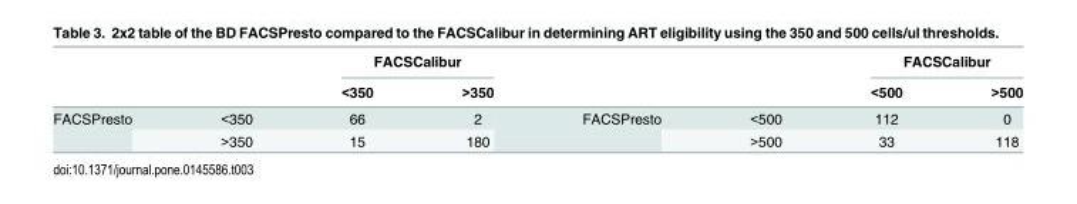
<table><thead><tr><td rowspan="2"></td><td rowspan="2"></td><td colspan="2">FACSCalibur</td><td rowspan="2"></td><td rowspan="2"></td><td colspan="2">FACSCalibur</td></tr><tr><td>&lt;350</td><td>&gt;350</td><td>&lt;500</td><td>&gt;500</td></tr></thead><tbody><tr><td rowspan="2">FACSPresto</td><td>&lt;350</td><td>66</td><td>2</td><td rowspan="2">FACSPresto</td><td>&lt;500</td><td>112</td><td>0</td></tr><tr><td>&gt;350</td><td>15</td><td>180</td><td>&gt;500</td><td>33</td><td>118</td></tr></tbody></table>